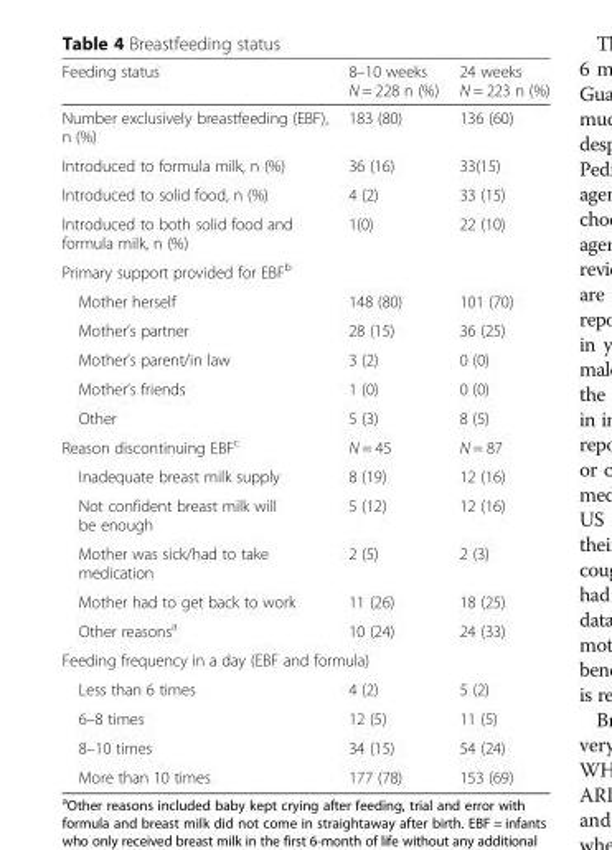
<table><thead><tr><td>Feeding status</td><td>8–10 weeks N = 228 n (%)</td><td>24 weeks N = 223 n (%)</td></tr></thead><tbody><tr><td>Number exclusively breastfeeding (EBF), n (%)</td><td>183 (80)</td><td>136 (60)</td></tr><tr><td>Introduced to formula milk, n (%)</td><td>36 (16)</td><td>33(15)</td></tr><tr><td>Introduced to solid food, n (%)</td><td>4 (2)</td><td>33 (15)</td></tr><tr><td>Introduced to both solid food and formula milk, n (%)</td><td>1(0)</td><td>22 (10)</td></tr><tr><td colspan="3">Primary support provided for EBF<sup>b</sup></td></tr><tr><td>Mother herself</td><td>148 (80)</td><td>101 (70)</td></tr><tr><td>Mother’s partner</td><td>28 (15)</td><td>36 (25)</td></tr><tr><td>Mother’s parent/in law</td><td>3 (2)</td><td>0 (0)</td></tr><tr><td>Mother’s friends</td><td>1 (0)</td><td>0 (0)</td></tr><tr><td>Other</td><td>5 (3)</td><td>8 (5)</td></tr><tr><td>Reason discontinuing EBF<sup>c</sup></td><td>N = 45</td><td>N = 87</td></tr><tr><td>Inadequate breast milk supply</td><td>8 (19)</td><td>12 (16)</td></tr><tr><td>Not confident breast milk will be enough</td><td>5 (12)</td><td>12 (16)</td></tr><tr><td>Mother was sick/had to take medication</td><td>2 (5)</td><td>2 (3)</td></tr><tr><td>Mother had to get back to work</td><td>11 (26)</td><td>18 (25)</td></tr><tr><td>Other reasons<sup>a</sup></td><td>10 (24)</td><td>24 (33)</td></tr><tr><td colspan="3">Feeding frequency in a day (EBF and formula)</td></tr><tr><td>Less than 6 times</td><td>4 (2)</td><td>5 (2)</td></tr><tr><td>6–8 times</td><td>12 (5)</td><td>11 (5)</td></tr><tr><td>8–10 times</td><td>34 (15)</td><td>54 (24)</td></tr><tr><td>More than 10 times</td><td>177 (78)</td><td>153 (69)</td></tr></tbody></table>